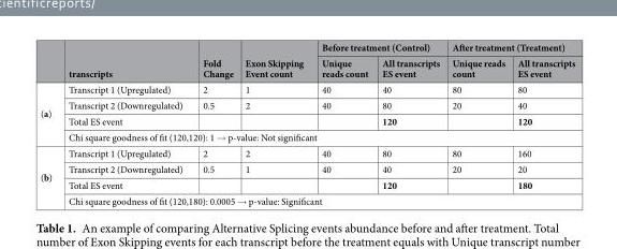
<table><thead><tr><td rowspan="2"></td><td rowspan="2">transcripts</td><td rowspan="2">Fold Change</td><td rowspan="2">Exon Skipping Event count</td><td colspan="2">Before treatment (Control)</td><td colspan="2">After treatment (Treatment)</td></tr><tr><td>Unique reads count</td><td>All transcripts ES event</td><td>Unique reads count</td><td>All transcripts ES event</td></tr></thead><tbody><tr><td rowspan="4">(a)</td><td>Transcript 1 (Upregulated)</td><td>2</td><td>1</td><td>40</td><td>40</td><td>80</td><td>80</td></tr><tr><td>Transcript 2 (Downregulated)</td><td>0.5</td><td>2</td><td>40</td><td>80</td><td>20</td><td>40</td></tr><tr><td>Total ES event</td><td></td><td></td><td></td><td>120</td><td></td><td>120</td></tr><tr><td colspan="7">Chi square goodness of fit (120,120): 1 → p-value: Not significant</td></tr><tr><td rowspan="4">(b)</td><td>Transcript 1 (Upregulated)</td><td>2</td><td>2</td><td>40</td><td>80</td><td>80</td><td>160</td></tr><tr><td>Transcript 2 (Downregulated)</td><td>0.5</td><td>1</td><td>40</td><td>40</td><td>20</td><td>20</td></tr><tr><td>Total ES event</td><td></td><td></td><td></td><td>120</td><td></td><td>180</td></tr><tr><td colspan="7">Chi square goodness of fit (120,180): 0.0005 → p-value: Significant</td></tr></tbody></table>